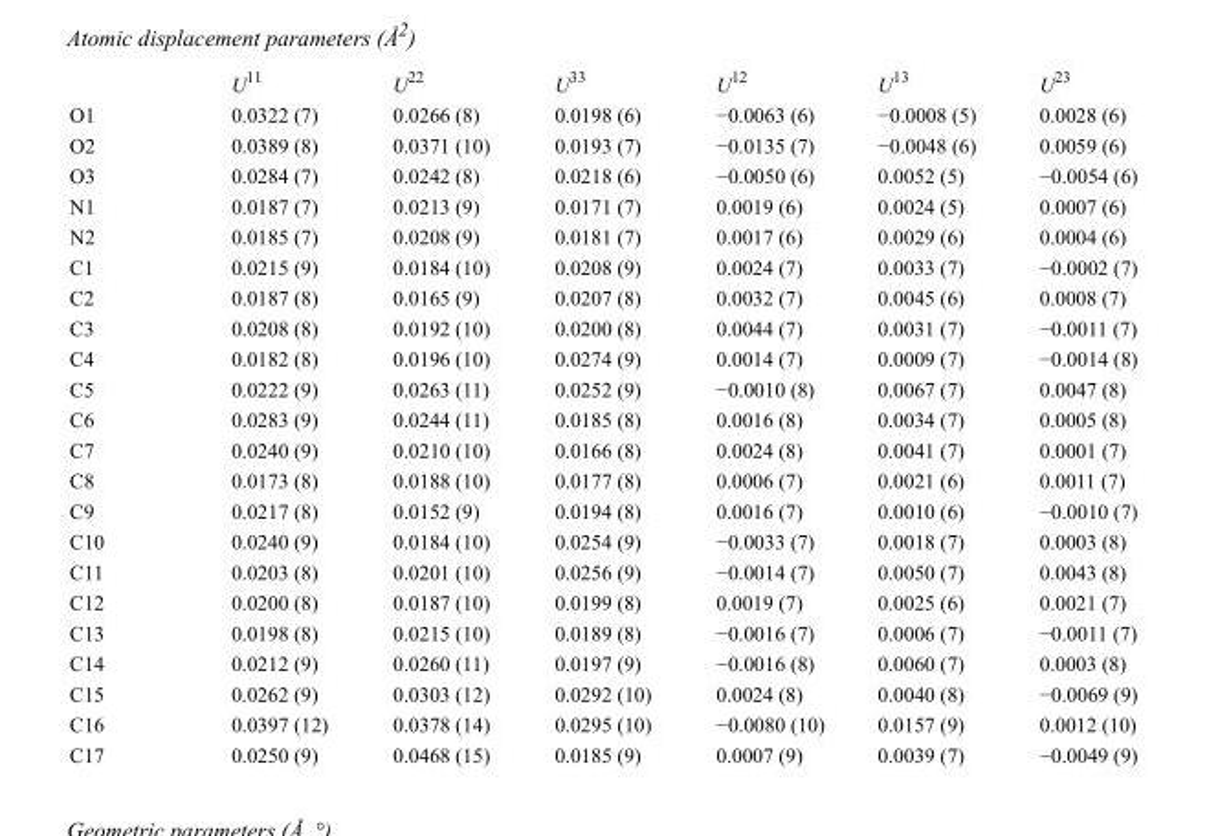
<table><thead><tr><td></td><td>U<sup>11</sup></td><td>U<sup>22</sup></td><td>U<sup>33</sup></td><td>U<sup>12</sup></td><td>U<sup>13</sup></td><td>U<sup>23</sup></td></tr></thead><tbody><tr><td>O1</td><td>0.0322 (7)</td><td>0.0266 (8)</td><td>0.0198 (6)</td><td>−0.0063 (6)</td><td>−0.0008 (5)</td><td>0.0028 (6)</td></tr><tr><td>O2</td><td>0.0389 (8)</td><td>0.0371 (10)</td><td>0.0193 (7)</td><td>−0.0135 (7)</td><td>−0.0048 (6)</td><td>0.0059 (6)</td></tr><tr><td>O3</td><td>0.0284 (7)</td><td>0.0242 (8)</td><td>0.0218 (6)</td><td>−0.0050 (6)</td><td>0.0052 (5)</td><td>−0.0054 (6)</td></tr><tr><td>N1</td><td>0.0187 (7)</td><td>0.0213 (9)</td><td>0.0171 (7)</td><td>0.0019 (6)</td><td>0.0024 (5)</td><td>0.0007 (6)</td></tr><tr><td>N2</td><td>0.0185 (7)</td><td>0.0208 (9)</td><td>0.0181 (7)</td><td>0.0017 (6)</td><td>0.0029 (6)</td><td>0.0004 (6)</td></tr><tr><td>C1</td><td>0.0215 (9)</td><td>0.0184 (10)</td><td>0.0208 (9)</td><td>0.0024 (7)</td><td>0.0033 (7)</td><td>−0.0002 (7)</td></tr><tr><td>C2</td><td>0.0187 (8)</td><td>0.0165 (9)</td><td>0.0207 (8)</td><td>0.0032 (7)</td><td>0.0045 (6)</td><td>0.0008 (7)</td></tr><tr><td>C3</td><td>0.0208 (8)</td><td>0.0192 (10)</td><td>0.0200 (8)</td><td>0.0044 (7)</td><td>0.0031 (7)</td><td>−0.0011 (7)</td></tr><tr><td>C4</td><td>0.0182 (8)</td><td>0.0196 (10)</td><td>0.0274 (9)</td><td>0.0014 (7)</td><td>0.0009 (7)</td><td>−0.0014 (8)</td></tr><tr><td>C5</td><td>0.0222 (9)</td><td>0.0263 (11)</td><td>0.0252 (9)</td><td>−0.0010 (8)</td><td>0.0067 (7)</td><td>0.0047 (8)</td></tr><tr><td>C6</td><td>0.0283 (9)</td><td>0.0244 (11)</td><td>0.0185 (8)</td><td>0.0016 (8)</td><td>0.0034 (7)</td><td>0.0005 (8)</td></tr><tr><td>C7</td><td>0.0240 (9)</td><td>0.0210 (10)</td><td>0.0166 (8)</td><td>0.0024 (8)</td><td>0.0041 (7)</td><td>0.0001 (7)</td></tr><tr><td>C8</td><td>0.0173 (8)</td><td>0.0188 (10)</td><td>0.0177 (8)</td><td>0.0006 (7)</td><td>0.0021 (6)</td><td>0.0011 (7)</td></tr><tr><td>C9</td><td>0.0217 (8)</td><td>0.0152 (9)</td><td>0.0194 (8)</td><td>0.0016 (7)</td><td>0.0010 (6)</td><td>−0.0010 (7)</td></tr><tr><td>C10</td><td>0.0240 (9)</td><td>0.0184 (10)</td><td>0.0254 (9)</td><td>−0.0033 (7)</td><td>0.0018 (7)</td><td>0.0003 (8)</td></tr><tr><td>C11</td><td>0.0203 (8)</td><td>0.0201 (10)</td><td>0.0256 (9)</td><td>−0.0014 (7)</td><td>0.0050 (7)</td><td>0.0043 (8)</td></tr><tr><td>C12</td><td>0.0200 (8)</td><td>0.0187 (10)</td><td>0.0199 (8)</td><td>0.0019 (7)</td><td>0.0025 (6)</td><td>0.0021 (7)</td></tr><tr><td>C13</td><td>0.0198 (8)</td><td>0.0215 (10)</td><td>0.0189 (8)</td><td>−0.0016 (7)</td><td>0.0006 (7)</td><td>−0.0011 (7)</td></tr><tr><td>C14</td><td>0.0212 (9)</td><td>0.0260 (11)</td><td>0.0197 (9)</td><td>−0.0016 (8)</td><td>0.0060 (7)</td><td>0.0003 (8)</td></tr><tr><td>C15</td><td>0.0262 (9)</td><td>0.0303 (12)</td><td>0.0292 (10)</td><td>0.0024 (8)</td><td>0.0040 (8)</td><td>−0.0069 (9)</td></tr><tr><td>C16</td><td>0.0397 (12)</td><td>0.0378 (14)</td><td>0.0295 (10)</td><td>−0.0080 (10)</td><td>0.0157 (9)</td><td>0.0012 (10)</td></tr><tr><td>C17</td><td>0.0250 (9)</td><td>0.0468 (15)</td><td>0.0185 (9)</td><td>0.0007 (9)</td><td>0.0039 (7)</td><td>−0.0049 (9)</td></tr></tbody></table>